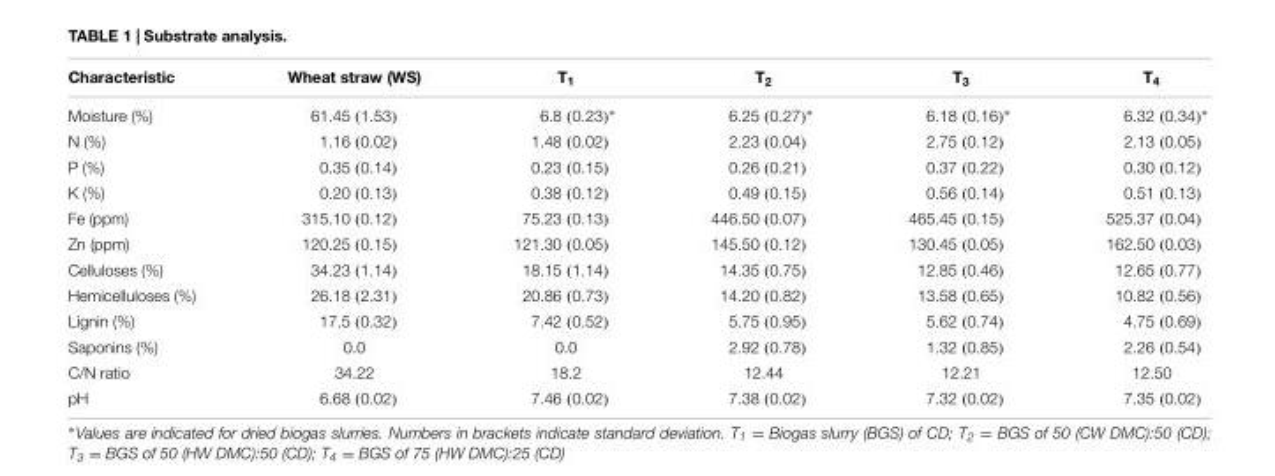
<table><thead><tr><td>Characteristic</td><td>Wheat straw (WS)</td><td>T<sub>1</sub></td><td>T<sub>2</sub></td><td>T<sub>3</sub></td><td>T<sub>4</sub></td></tr></thead><tbody><tr><td>Moisture (%)</td><td>61.45 (1.53)</td><td>6.8 (0.23)∗</td><td>6.25 (0.27)∗</td><td>6.18 (0.16)∗</td><td>6.32 (0.34)∗</td></tr><tr><td>N (%)</td><td>1.16 (0.02)</td><td>1.48 (0.02)</td><td>2.23 (0.04)</td><td>2.75 (0.12)</td><td>2.13 (0.05)</td></tr><tr><td>P (%)</td><td>0.35 (0.14)</td><td>0.23 (0.15)</td><td>0.26 (0.21)</td><td>0.37 (0.22)</td><td>0.30 (0.12)</td></tr><tr><td>K (%)</td><td>0.20 (0.13)</td><td>0.38 (0.12)</td><td>0.49 (0.15)</td><td>0.56 (0.14)</td><td>0.51 (0.13)</td></tr><tr><td>Fe (ppm)</td><td>315.10 (0.12)</td><td>75.23 (0.13)</td><td>446.50 (0.07)</td><td>465.45 (0.15)</td><td>525.37 (0.04)</td></tr><tr><td>Zn (ppm)</td><td>120.25 (0.15)</td><td>121.30 (0.05)</td><td>145.50 (0.12)</td><td>130.45 (0.05)</td><td>162.50 (0.03)</td></tr><tr><td>Celluloses (%)</td><td>34.23 (1.14)</td><td>18.15 (1.14)</td><td>14.35 (0.75)</td><td>12.85 (0.46)</td><td>12.65 (0.77)</td></tr><tr><td>Hemicelluloses (%)</td><td>26.18 (2.31)</td><td>20.86 (0.73)</td><td>14.20 (0.82)</td><td>13.58 (0.65)</td><td>10.82 (0.56)</td></tr><tr><td>Lignin (%)</td><td>17.5 (0.32)</td><td>7.42 (0.52)</td><td>5.75 (0.95)</td><td>5.62 (0.74)</td><td>4.75 (0.69)</td></tr><tr><td>Saponins (%)</td><td>0.0</td><td>0.0</td><td>2.92 (0.78)</td><td>1.32 (0.85)</td><td>2.26 (0.54)</td></tr><tr><td>C/N ratio</td><td>34.22</td><td>18.2</td><td>12.44</td><td>12.21</td><td>12.50</td></tr><tr><td>pH</td><td>6.68 (0.02)</td><td>7.46 (0.02)</td><td>7.38 (0.02)</td><td>7.32 (0.02)</td><td>7.35 (0.02)</td></tr></tbody></table>